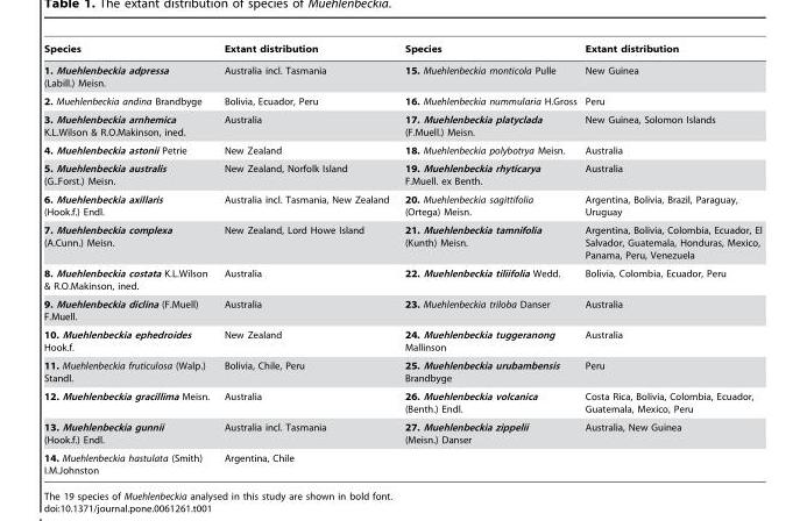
<table><thead><tr><td>Species</td><td>Extant distribution</td><td>Species</td><td>Extant distribution</td></tr></thead><tbody><tr><td>1. Muehlenbeckia adpressa (Labill.) Meisn.</td><td>Australia incl. Tasmania</td><td>15. Muehlenbeckia monticola Pulle</td><td>New Guinea</td></tr><tr><td>2. Muehlenbeckia andina Brandbyge</td><td>Bolivia, Ecuador, Peru</td><td>16. Muehlenbeckia nummularia H.Gross</td><td>Peru</td></tr><tr><td>3. Muehlenbeckia arnhemica K.L.Wilson &amp; R.O.Makinson, ined.</td><td>Australia</td><td>17. Muehlenbeckia platyclada (F.Muell.) Meisn.</td><td>New Guinea, Solomon Islands</td></tr><tr><td>4. Muehlenbeckia astonii Petrie</td><td>New Zealand</td><td>18. Muehlenbeckia polybotrya Meisn.</td><td>Australia</td></tr><tr><td>5. Muehlenbeckia australis (G..Forst.) Meisn.</td><td>New Zealand, Norfolk Island</td><td>19. Muehlenbeckia rhyticarya F.Muell. ex Benth.</td><td>Australia</td></tr><tr><td>6. Muehlenbeckia axillaris (Hook.f.) Endl.</td><td>Australia incl. Tasmania, New Zealand</td><td>20. Muehlenbeckia sagittifolia (Ortega) Meisn.</td><td>Argentina, Bolivia, Brazil, Paraguay, Uruguay</td></tr><tr><td>7. Muehlenbeckia complexa (A.Cunn.) Meisn.</td><td>New Zealand, Lord Howe Island</td><td>21. Muehlenbeckia tamnifolia (Kunth) Meisn.</td><td>Argentina, Bolivia, Colombia, Ecuador, El Salvador, Guatemala, Honduras, Mexico, Panama, Peru, Venezuela</td></tr><tr><td>8. Muehlenbeckia costata K.L.Wilson &amp; R.O.Makinson, ined.</td><td>Australia</td><td>22. Muehlenbeckia tiliifolia Wedd.</td><td>Bolivia, Colombia, Ecuador, Peru</td></tr><tr><td>9. Muehlenbeckia diclina (F.Muell) F.Muell.</td><td>Australia</td><td>23. Muehlenbeckia triloba Danser</td><td>Australia</td></tr><tr><td>10. Muehlenbeckia ephedroides Hook.f.</td><td>New Zealand</td><td>24. Muehlenbeckia tuggeranong Mallinson</td><td>Australia</td></tr><tr><td>11. Muehlenbeckia fruticulosa (Walp.) Standl.</td><td>Bolivia, Chile, Peru</td><td>25. Muehlenbeckia urubambensis Brandbyge</td><td>Peru</td></tr><tr><td>12. Muehlenbeckia gracillima Meisn.</td><td>Australia</td><td>26. Muehlenbeckia volcanica (Benth.) Endl.</td><td>Costa Rica, Bolivia, Colombia, Ecuador, Guatemala, Mexico, Peru</td></tr><tr><td>13. Muehlenbeckia gunnii (Hook.f.) Endl.</td><td>Australia incl. Tasmania</td><td>27. Muehlenbeckia zippelii (Meisn.) Danser</td><td>Australia, New Guinea</td></tr><tr><td>14. Muehlenbeckia hastulata (Smith) I.M.Johnston</td><td>Argentina, Chile</td><td></td><td></td></tr></tbody></table>